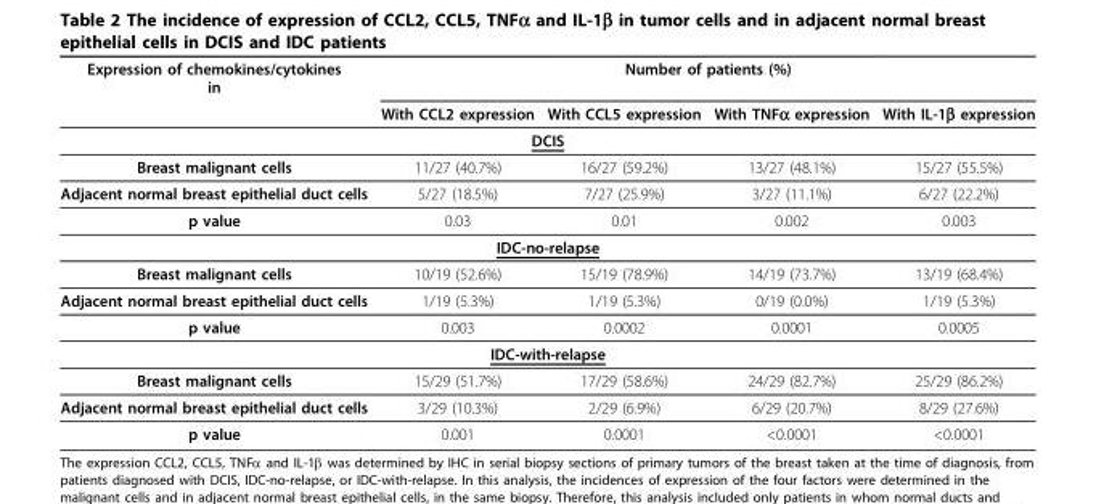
<table><thead><tr><td rowspan="2">Expression of chemokines/cytokines in</td><td colspan="4">Number of patients (%)</td></tr><tr><td>With CCL2 expression</td><td>With CCL5 expression</td><td>With TNFα expression</td><td>With IL-1β expression</td></tr></thead><tbody><tr><td colspan="5">DCIS</td></tr><tr><td>Breast malignant cells</td><td>11/27 (40.7%)</td><td>16/27 (59.2%)</td><td>13/27 (48.1%)</td><td>15/27 (55.5%)</td></tr><tr><td>Adjacent normal breast epithelial duct cells</td><td>5/27 (18.5%)</td><td>7/27 (25.9%)</td><td>3/27 (11.1%)</td><td>6/27 (22.2%)</td></tr><tr><td>p value</td><td>0.03</td><td>0.01</td><td>0.002</td><td>0.003</td></tr><tr><td colspan="5">IDC-no-relapse</td></tr><tr><td>Breast malignant cells</td><td>10/19 (52.6%)</td><td>15/19 (78.9%)</td><td>14/19 (73.7%)</td><td>13/19 (68.4%)</td></tr><tr><td>Adjacent normal breast epithelial duct cells</td><td>1/19 (5.3%)</td><td>1/19 (5.3%)</td><td>0/19 (0.0%)</td><td>1/19 (5.3%)</td></tr><tr><td>p value</td><td>0.003</td><td>0.0002</td><td>0.0001</td><td>0.0005</td></tr><tr><td colspan="5">IDC-with-relapse</td></tr><tr><td>Breast malignant cells</td><td>15/29 (51.7%)</td><td>17/29 (58.6%)</td><td>24/29 (82.7%)</td><td>25/29 (86.2%)</td></tr><tr><td>Adjacent normal breast epithelial duct cells</td><td>3/29 (10.3%)</td><td>2/29 (6.9%)</td><td>6/29 (20.7%)</td><td>8/29 (27.6%)</td></tr><tr><td>p value</td><td>0.001</td><td>0.0001</td><td>&lt;0.0001</td><td>&lt;0.0001</td></tr></tbody></table>